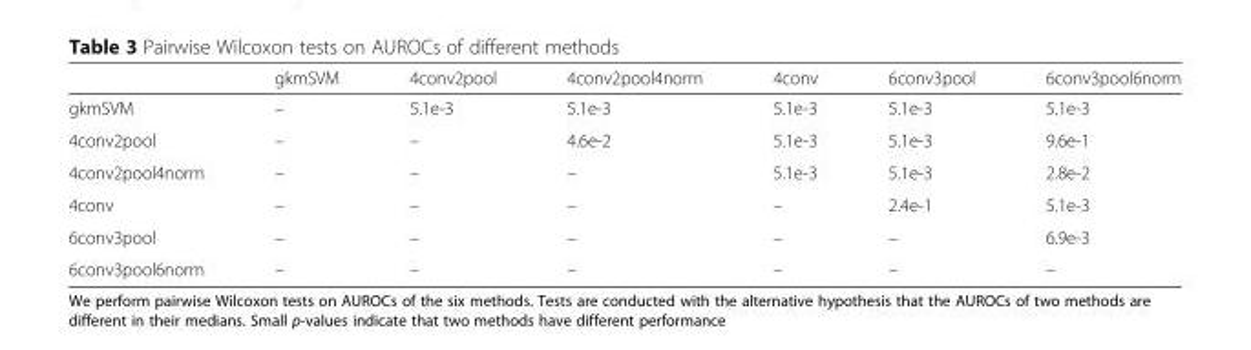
<table><thead><tr><td></td><td>gkmSVM</td><td>4conv2pool</td><td>4conv2pool4norm</td><td>4conv</td><td>6conv3pool</td><td>6conv3pool6norm</td></tr></thead><tbody><tr><td>gkmSVM</td><td>–</td><td>5.1e-3</td><td>5.1e-3</td><td>5.1e-3</td><td>5.1e-3</td><td>5.1e-3</td></tr><tr><td>4conv2pool</td><td>–</td><td>–</td><td>4.6e-2</td><td>5.1e-3</td><td>5.1e-3</td><td>9.6e-1</td></tr><tr><td>4conv2pool4norm</td><td>–</td><td>–</td><td>–</td><td>5.1e-3</td><td>5.1e-3</td><td>2.8e-2</td></tr><tr><td>4conv</td><td>–</td><td>–</td><td>–</td><td>–</td><td>2.4e-1</td><td>5.1e-3</td></tr><tr><td>6conv3pool</td><td>–</td><td>–</td><td>–</td><td>–</td><td>–</td><td>6.9e-3</td></tr><tr><td>6conv3pool6norm</td><td>–</td><td>–</td><td>–</td><td>–</td><td>–</td><td>–</td></tr></tbody></table>